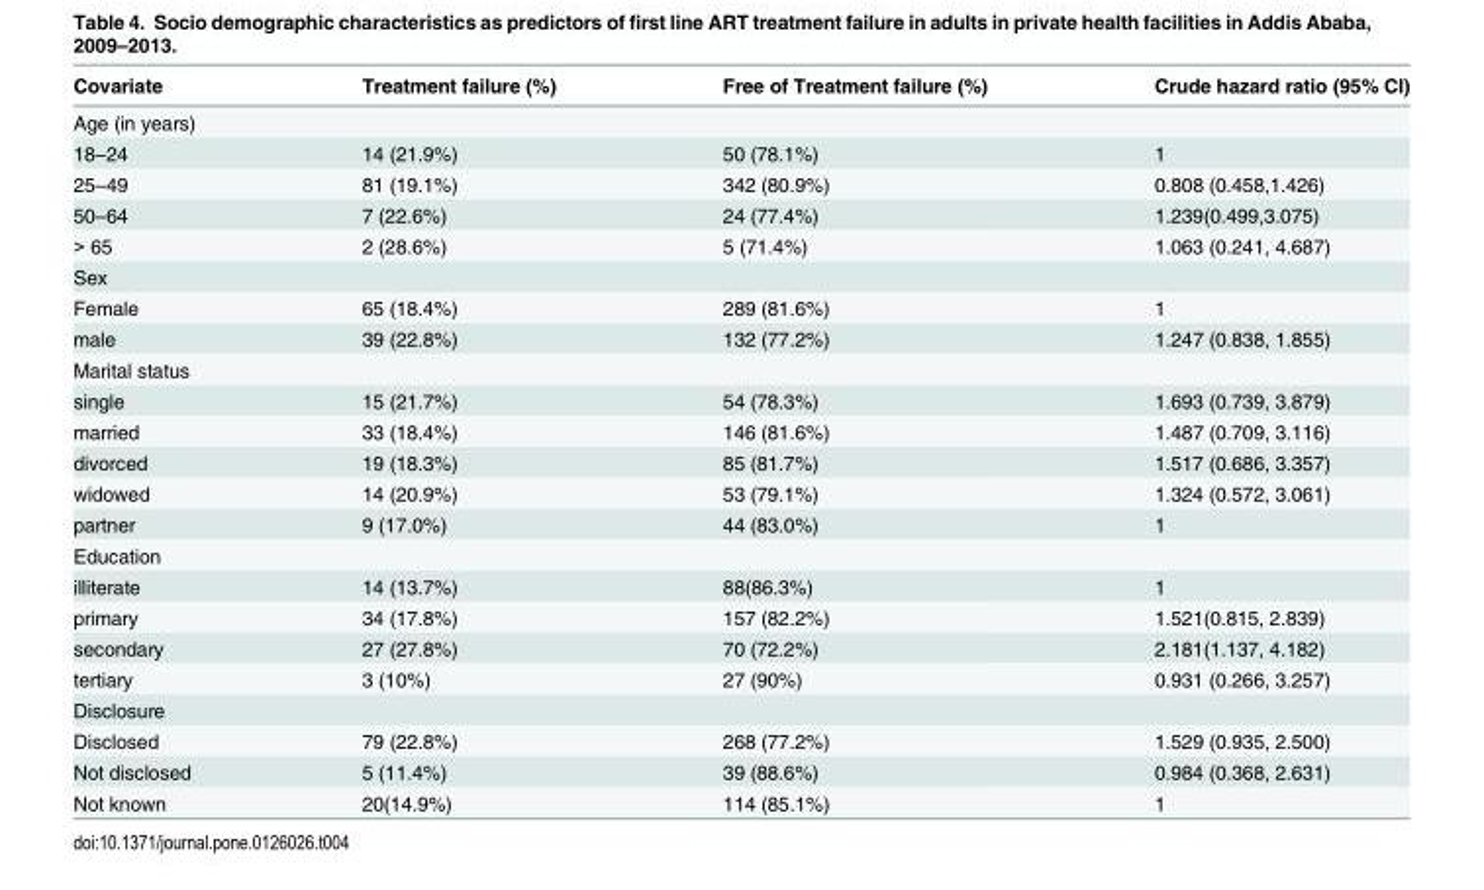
<table><thead><tr><td>Covariate</td><td>Treatment failure (%)</td><td>Free of Treatment failure (%)</td><td>Crude hazard ratio (95% CI)</td></tr></thead><tbody><tr><td colspan="4">Age (in years)</td></tr><tr><td>18–24</td><td>14 (21.9%)</td><td>50 (78.1%)</td><td>1</td></tr><tr><td>25–49</td><td>81 (19.1%)</td><td>342 (80.9%)</td><td>0.808 (0.458,1.426)</td></tr><tr><td>50–64</td><td>7 (22.6%)</td><td>24 (77.4%)</td><td>1.239(0.499,3.075)</td></tr><tr><td>&gt; 65</td><td>2 (28.6%)</td><td>5 (71.4%)</td><td>1.063 (0.241, 4.687)</td></tr><tr><td colspan="4">Sex</td></tr><tr><td>Female</td><td>65 (18.4%)</td><td>289 (81.6%)</td><td>1</td></tr><tr><td>male</td><td>39 (22.8%)</td><td>132 (77.2%)</td><td>1.247 (0.838, 1.855)</td></tr><tr><td colspan="4">Marital status</td></tr><tr><td>single</td><td>15 (21.7%)</td><td>54 (78.3%)</td><td>1.693 (0.739, 3.879)</td></tr><tr><td>married</td><td>33 (18.4%)</td><td>146 (81.6%)</td><td>1.487 (0.709, 3.116)</td></tr><tr><td>divorced</td><td>19 (18.3%)</td><td>85 (81.7%)</td><td>1.517 (0.686, 3.357)</td></tr><tr><td>widowed</td><td>14 (20.9%)</td><td>53 (79.1%)</td><td>1.324 (0.572, 3.061)</td></tr><tr><td>partner</td><td>9 (17.0%)</td><td>44 (83.0%)</td><td>1</td></tr><tr><td colspan="4">Education</td></tr><tr><td>illiterate</td><td>14 (13.7%)</td><td>88(86.3%)</td><td>1</td></tr><tr><td>primary</td><td>34 (17.8%)</td><td>157 (82.2%)</td><td>1.521(0.815, 2.839)</td></tr><tr><td>secondary</td><td>27 (27.8%)</td><td>70 (72.2%)</td><td>2.181(1.137, 4.182)</td></tr><tr><td>tertiary</td><td>3 (10%)</td><td>27 (90%)</td><td>0.931 (0.266, 3.257)</td></tr><tr><td colspan="4">Disclosure</td></tr><tr><td>Disclosed</td><td>79 (22.8%)</td><td>268 (77.2%)</td><td>1.529 (0.935, 2.500)</td></tr><tr><td>Not disclosed</td><td>5 (11.4%)</td><td>39 (88.6%)</td><td>0.984 (0.368, 2.631)</td></tr><tr><td>Not known</td><td>20(14.9%)</td><td>114 (85.1%)</td><td>1</td></tr></tbody></table>